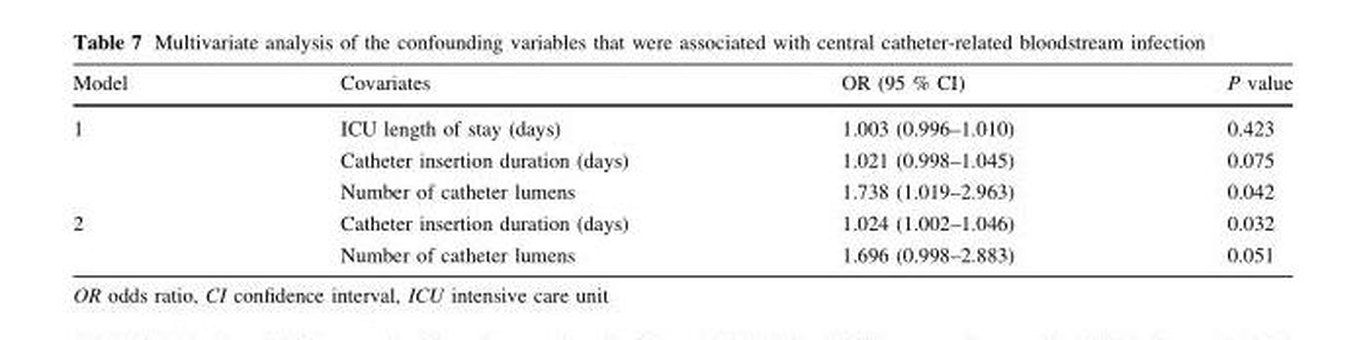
<table><thead><tr><td>Model</td><td>Covariates</td><td>OR (95 % CI)</td><td>P value</td></tr></thead><tbody><tr><td rowspan="3">1</td><td>ICU length of stay (days)</td><td>1.003 (0.996–1.010)</td><td>0.423</td></tr><tr><td>Catheter insertion duration (days)</td><td>1.021 (0.998–1.045)</td><td>0.075</td></tr><tr><td>Number of catheter lumens</td><td>1.738 (1.019–2.963)</td><td>0.042</td></tr><tr><td rowspan="2">2</td><td>Catheter insertion duration (days)</td><td>1.024 (1.002–1.046)</td><td>0.032</td></tr><tr><td>Number of catheter lumens</td><td>1.696 (0.998–2.883)</td><td>0.051</td></tr></tbody></table>